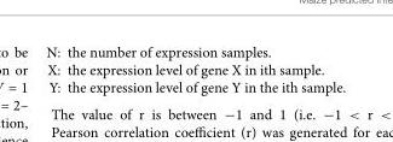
<table><tbody><tr><td>N:</td><td>the number of expression samples.</td></tr><tr><td>X:</td><td>the expression level of gene X in ith sample.</td></tr><tr><td>Y:</td><td>the expression level of gene Y in the ith sample.</td></tr></tbody></table>